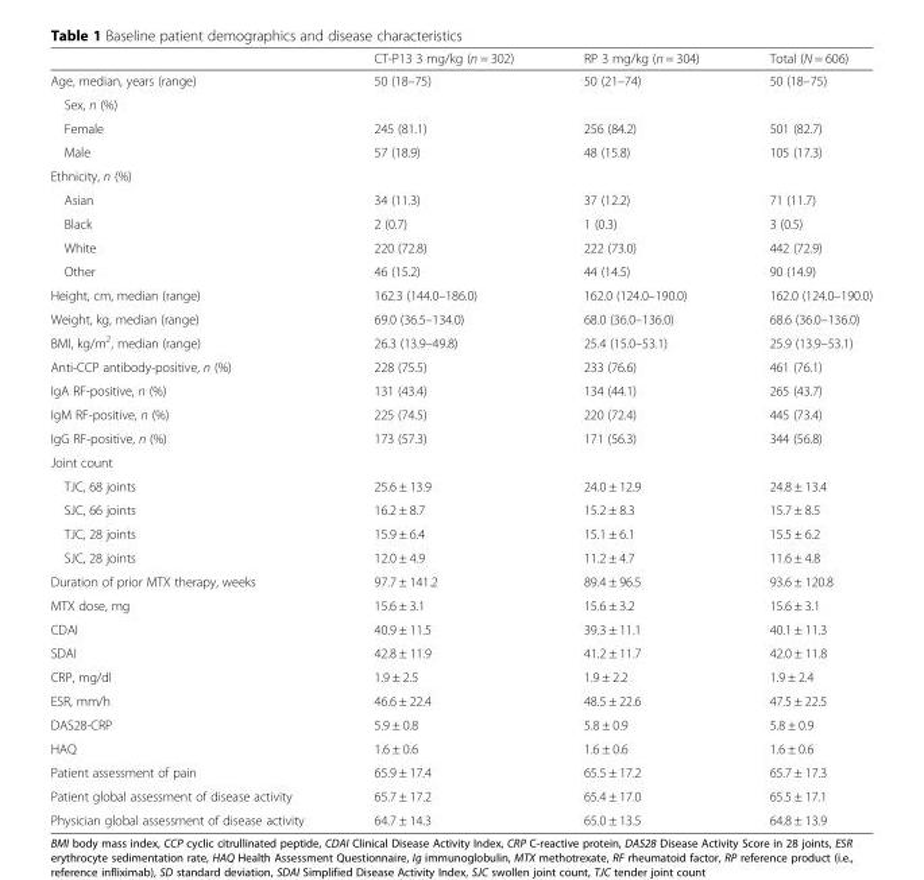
<table><thead><tr><td></td><td>CT-P13 3 mg/kg (n = 302)</td><td>RP 3 mg/kg (n = 304)</td><td>Total (N = 606)</td></tr></thead><tbody><tr><td>Age, median, years (range)</td><td>50 (18–75)</td><td>50 (21–74)</td><td>50 (18–75)</td></tr><tr><td colspan="4">Sex, n (%)</td></tr><tr><td>Female</td><td>245 (81.1)</td><td>256 (84.2)</td><td>501 (82.7)</td></tr><tr><td>Male</td><td>57 (18.9)</td><td>48 (15.8)</td><td>105 (17.3)</td></tr><tr><td colspan="4">Ethnicity, n (%)</td></tr><tr><td>Asian</td><td>34 (11.3)</td><td>37 (12.2)</td><td>71 (11.7)</td></tr><tr><td>Black</td><td>2 (0.7)</td><td>1 (0.3)</td><td>3 (0.5)</td></tr><tr><td>White</td><td>220 (72.8)</td><td>222 (73.0)</td><td>442 (72.9)</td></tr><tr><td>Other</td><td>46 (15.2)</td><td>44 (14.5)</td><td>90 (14.9)</td></tr><tr><td>Height, cm, median (range)</td><td>162.3 (144.0–186.0)</td><td>162.0 (124.0–190.0)</td><td>162.0 (124.0–190.0)</td></tr><tr><td>Weight, kg, median (range)</td><td>69.0 (36.5–134.0)</td><td>68.0 (36.0–136.0)</td><td>68.6 (36.0–136.0)</td></tr><tr><td>BMI, kg/m<sup>2</sup>, median (range)</td><td>26.3 (13.9–49.8)</td><td>25.4 (15.0–53.1)</td><td>25.9 (13.9–53.1)</td></tr><tr><td>Anti-CCP antibody-positive, n (%)</td><td>228 (75.5)</td><td>233 (76.6)</td><td>461 (76.1)</td></tr><tr><td>IgA RF-positive, n (%)</td><td>131 (43.4)</td><td>134 (44.1)</td><td>265 (43.7)</td></tr><tr><td>IgM RF-positive, n (%)</td><td>225 (74.5)</td><td>220 (72.4)</td><td>445 (73.4)</td></tr><tr><td>IgG RF-positive, n (%)</td><td>173 (57.3)</td><td>171 (56.3)</td><td>344 (56.8)</td></tr><tr><td colspan="4">Joint count</td></tr><tr><td>TJC, 68 joints</td><td>25.6 ± 13.9</td><td>24.0 ± 12.9</td><td>24.8 ± 13.4</td></tr><tr><td>SJC, 66 joints</td><td>16.2 ± 8.7</td><td>15.2 ± 8.3</td><td>15.7 ± 8.5</td></tr><tr><td>TJC, 28 joints</td><td>15.9 ± 6.4</td><td>15.1 ± 6.1</td><td>15.5 ± 6.2</td></tr><tr><td>SJC, 28 joints</td><td>12.0 ± 4.9</td><td>11.2 ± 4.7</td><td>11.6 ± 4.8</td></tr><tr><td>Duration of prior MTX therapy, weeks</td><td>97.7 ± 141.2</td><td>89.4 ± 96.5</td><td>93.6 ± 120.8</td></tr><tr><td>MTX dose, mg</td><td>15.6 ± 3.1</td><td>15.6 ± 3.2</td><td>15.6 ± 3.1</td></tr><tr><td>CDAI</td><td>40.9 ± 11.5</td><td>39.3 ± 11.1</td><td>40.1 ± 11.3</td></tr><tr><td>SDAI</td><td>42.8 ± 11.9</td><td>41.2 ± 11.7</td><td>42.0 ± 11.8</td></tr><tr><td>CRP, mg/dl</td><td>1.9 ± 2.5</td><td>1.9 ± 2.2</td><td>1.9 ± 2.4</td></tr><tr><td>ESR, mm/h</td><td>46.6 ± 22.4</td><td>48.5 ± 22.6</td><td>47.5 ± 22.5</td></tr><tr><td>DAS28-CRP</td><td>5.9 ± 0.8</td><td>5.8 ± 0.9</td><td>5.8 ± 0.9</td></tr><tr><td>HAQ</td><td>1.6 ± 0.6</td><td>1.6 ± 0.6</td><td>1.6 ± 0.6</td></tr><tr><td>Patient assessment of pain</td><td>65.9 ± 17.4</td><td>65.5 ± 17.2</td><td>65.7 ± 17.3</td></tr><tr><td>Patient global assessment of disease activity</td><td>65.7 ± 17.2</td><td>65.4 ± 17.0</td><td>65.5 ± 17.1</td></tr><tr><td>Physician global assessment of disease activity</td><td>64.7 ± 14.3</td><td>65.0 ± 13.5</td><td>64.8 ± 13.9</td></tr></tbody></table>